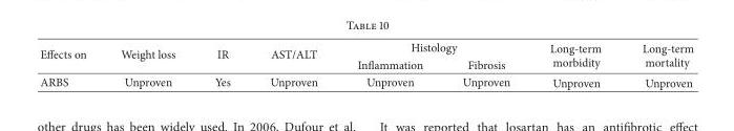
<table><thead><tr><td rowspan="2">Effects on</td><td rowspan="2">Weight loss</td><td rowspan="2">IR</td><td rowspan="2">AST/ALT</td><td colspan="2">Histology</td><td rowspan="2">Long-term morbidity</td><td rowspan="2">Long-term mortality</td></tr><tr><td>Inflammation</td><td>Fibrosis</td></tr></thead><tbody><tr><td>ARBS</td><td>Unproven</td><td>Yes</td><td>Unproven</td><td>Unproven</td><td>Unproven</td><td>Unproven</td><td>Unproven</td></tr></tbody></table>